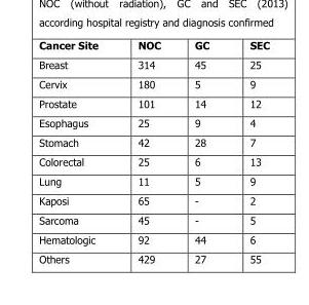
<table><thead><tr><td>Cancer Site</td><td>NOC</td><td>GC</td><td>SEC</td></tr></thead><tbody><tr><td>Breast</td><td>314</td><td>45</td><td>25</td></tr><tr><td>Cervix</td><td>180</td><td>5</td><td>9</td></tr><tr><td>Prostate</td><td>101</td><td>14</td><td>12</td></tr><tr><td>Esophagus</td><td>25</td><td>9</td><td>4</td></tr><tr><td>Stomach</td><td>42</td><td>28</td><td>7</td></tr><tr><td>Colorectal</td><td>25</td><td>6</td><td>13</td></tr><tr><td>Lung</td><td>11</td><td>5</td><td>9</td></tr><tr><td>Kaposi</td><td>65</td><td>-</td><td>2</td></tr><tr><td>Sarcoma</td><td>45</td><td>-</td><td>5</td></tr><tr><td>Hematologic</td><td>92</td><td>44</td><td>6</td></tr><tr><td>Others</td><td>429</td><td>27</td><td>55</td></tr></tbody></table>